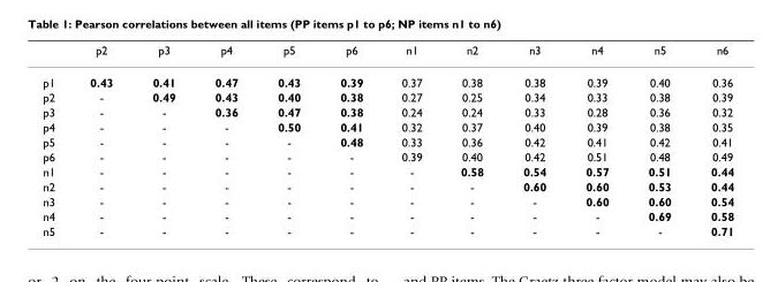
<table><thead><tr><td></td><td>p2</td><td>p3</td><td>p4</td><td>p5</td><td>p6</td><td>n1</td><td>n2</td><td>n3</td><td>n4</td><td>n5</td><td>n6</td></tr></thead><tbody><tr><td>p1</td><td>0.43</td><td>0.41</td><td>0.47</td><td>0.43</td><td>0.39</td><td>0.37</td><td>0.38</td><td>0.38</td><td>0.39</td><td>0.40</td><td>0.36</td></tr><tr><td>p2</td><td>-</td><td>0.49</td><td>0.43</td><td>0.40</td><td>0.38</td><td>0.27</td><td>0.25</td><td>0.34</td><td>0.33</td><td>0.38</td><td>0.39</td></tr><tr><td>p3</td><td>-</td><td>-</td><td>0.36</td><td>0.47</td><td>0.38</td><td>0.24</td><td>0.24</td><td>0.33</td><td>0.28</td><td>0.36</td><td>0.32</td></tr><tr><td>p4</td><td>-</td><td>-</td><td>-</td><td>0.50</td><td>0.41</td><td>0.32</td><td>0.37</td><td>0.40</td><td>0.39</td><td>0.38</td><td>0.35</td></tr><tr><td>p5</td><td>-</td><td>-</td><td>-</td><td>-</td><td>0.48</td><td>0.33</td><td>0.36</td><td>0.42</td><td>0.41</td><td>0.42</td><td>0.41</td></tr><tr><td>p6</td><td>-</td><td>-</td><td>-</td><td>-</td><td>-</td><td>0.39</td><td>0.40</td><td>0.42</td><td>0.51</td><td>0.48</td><td>0.49</td></tr><tr><td>n1</td><td>-</td><td>-</td><td>-</td><td>-</td><td>-</td><td>-</td><td>0.58</td><td>0.54</td><td>0.57</td><td>0.51</td><td>0.44</td></tr><tr><td>n2</td><td>-</td><td>-</td><td>-</td><td>-</td><td>-</td><td>-</td><td>-</td><td>0.60</td><td>0.60</td><td>0.53</td><td>0.44</td></tr><tr><td>n3</td><td>-</td><td>-</td><td>-</td><td>-</td><td>-</td><td>-</td><td>-</td><td>-</td><td>0.60</td><td>0.60</td><td>0.54</td></tr><tr><td>n4</td><td>-</td><td>-</td><td>-</td><td>-</td><td>-</td><td>-</td><td>-</td><td>-</td><td>-</td><td>0.69</td><td>0.58</td></tr><tr><td>n5</td><td>-</td><td>-</td><td>-</td><td>-</td><td>-</td><td>-</td><td>-</td><td>-</td><td>-</td><td>-</td><td>0.71</td></tr></tbody></table>